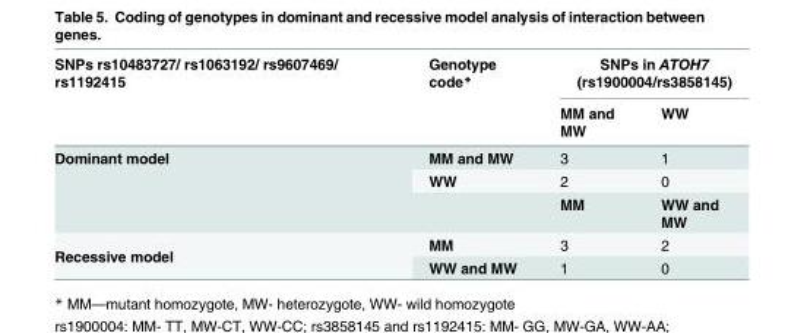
<table><thead><tr><td rowspan="2">SNPs rs10483727/ rs1063192/ rs9607469/ rs1192415</td><td rowspan="2">Genotype code*</td><td colspan="2">SNPs in ATOH7 (rs1900004/rs3858145)</td></tr><tr><td>MM and MW</td><td>WW</td></tr></thead><tbody><tr><td rowspan="3">Dominant model</td><td>MM and MW</td><td>3</td><td>1</td></tr><tr><td>WW</td><td>2</td><td>0</td></tr><tr><td></td><td>MM</td><td>WW and MW</td></tr><tr><td rowspan="2">Recessive model</td><td>MM</td><td>3</td><td>2</td></tr><tr><td>WW and MW</td><td>1</td><td>0</td></tr></tbody></table>